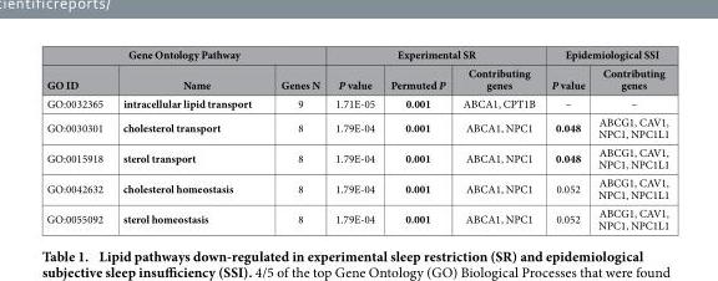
<table><thead><tr><td colspan="3">Gene Ontology Pathway</td><td colspan="3">Experimental SR</td><td colspan="2">Epidemiological SSI</td></tr><tr><td>GO ID</td><td>Name</td><td>Genes N</td><td>P value</td><td>Permuted P</td><td>Contributing genes</td><td>P value</td><td>Contributing genes</td></tr></thead><tbody><tr><td>GO:0032365</td><td>intracellular lipid transport</td><td>9</td><td>1.71E-05</td><td>0.001</td><td>ABCA1, CPT1B</td><td>–</td><td>–</td></tr><tr><td>GO:0030301</td><td>cholesterol transport</td><td>8</td><td>1.79E-04</td><td>0.001</td><td>ABCA1, NPC1</td><td>0.048</td><td>ABCG1, CAV1, NPC1, NPC1L1</td></tr><tr><td>GO:0015918</td><td>sterol transport</td><td>8</td><td>1.79E-04</td><td>0.001</td><td>ABCA1, NPC1</td><td>0.048</td><td>ABCG1, CAV1, NPC1, NPC1L1</td></tr><tr><td>GO:0042632</td><td>cholesterol homeostasis</td><td>8</td><td>1.79E-04</td><td>0.001</td><td>ABCA1, NPC1</td><td>0.052</td><td>ABCG1, CAV1, NPC1, NPC1L1</td></tr><tr><td>GO:0055092</td><td>sterol homeostasis</td><td>8</td><td>1.79E-04</td><td>0.001</td><td>ABCA1, NPC1</td><td>0.052</td><td>ABCG1, CAV1, NPC1, NPC1L1</td></tr></tbody></table>